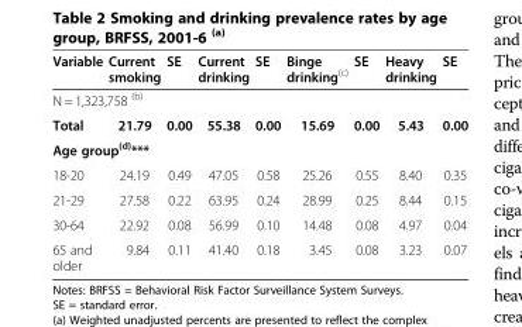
<table><thead><tr><td>Variable</td><td>Current smoking</td><td>SE</td><td>Current drinking</td><td>SE</td><td>Binge drinking<sup>(c)</sup></td><td>SE</td><td>Heavy drinking</td><td>SE</td></tr></thead><tbody><tr><td colspan="9">N = 1,323,758 <sup>(b)</sup></td></tr><tr><td>Total</td><td>21.79</td><td>0.00</td><td>55.38</td><td>0.00</td><td>15.69</td><td>0.00</td><td>5.43</td><td>0.00</td></tr><tr><td colspan="9">Age group<sup>(d)</sup>***</td></tr><tr><td>18-20</td><td>24.19</td><td>0.49</td><td>47.05</td><td>0.58</td><td>25.26</td><td>0.55</td><td>8.40</td><td>0.35</td></tr><tr><td>21-29</td><td>27.58</td><td>0.22</td><td>63.95</td><td>0.24</td><td>28.99</td><td>0.25</td><td>8.44</td><td>0.15</td></tr><tr><td>30-64</td><td>22.92</td><td>0.08</td><td>56.99</td><td>0.10</td><td>14.48</td><td>0.08</td><td>4.97</td><td>0.04</td></tr><tr><td>65 and older</td><td>9.84</td><td>0.11</td><td>41.40</td><td>0.18</td><td>3.45</td><td>0.08</td><td>3.23</td><td>0.07</td></tr></tbody></table>